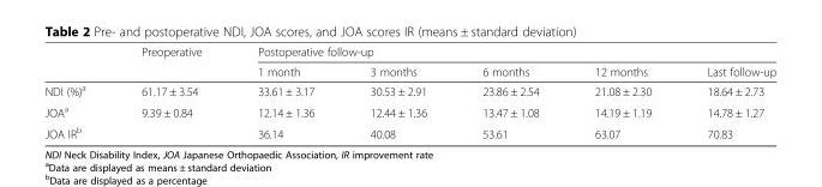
<table><thead><tr><td rowspan="2"></td><td rowspan="2">Preoperative</td><td colspan="5">Postoperative follow-up</td></tr><tr><td>1 month</td><td>3 months</td><td>6 months</td><td>12 months</td><td>Last follow-up</td></tr></thead><tbody><tr><td>NDI (%)<sup>a</sup></td><td>61.17 ± 3.54</td><td>33.61 ± 3.17</td><td>30.53 ± 2.91</td><td>23.86 ± 2.54</td><td>21.08 ± 2.30</td><td>18.64 ± 2.73</td></tr><tr><td>JOA<sup>a</sup></td><td>9.39 ± 0.84</td><td>12.14 ± 1.36</td><td>12.44 ± 1.36</td><td>13.47 ± 1.08</td><td>14.19 ± 1.19</td><td>14.78 ± 1.27</td></tr><tr><td>JOA IR<sup>b</sup></td><td></td><td>36.14</td><td>40.08</td><td>53.61</td><td>63.07</td><td>70.83</td></tr></tbody></table>